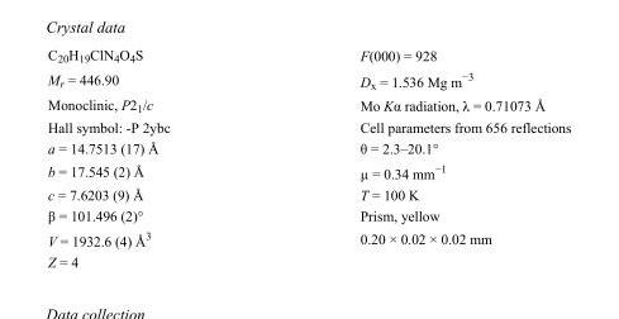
<table><tbody><tr><td>C<sub>20</sub>H<sub>19</sub>ClN<sub>4</sub>O<sub>4</sub>S</td><td>F(000) = 928</td></tr><tr><td>M<sub>r</sub> = 446.90</td><td>D<sub>x</sub> = 1.536 Mg m<sup>−3</sup></td></tr><tr><td>Monoclinic, P2<sub>1</sub>/c</td><td>Mo Kα radiation, λ = 0.71073 Å</td></tr><tr><td>Hall symbol: -P 2ybc</td><td>Cell parameters from 656 reflections</td></tr><tr><td>a = 14.7513 (17) Å</td><td>θ = 2.3–20.1°</td></tr><tr><td>b = 17.545 (2) Å</td><td>µ = 0.34 mm<sup>−1</sup></td></tr><tr><td>c = 7.6203 (9) Å</td><td>T = 100 K</td></tr><tr><td>β = 101.496 (2)°</td><td>Prism, yellow</td></tr><tr><td>V = 1932.6 (4) Å<sup>3</sup></td><td>0.20 × 0.02 × 0.02 mm</td></tr><tr><td>Z = 4</td><td></td></tr></tbody></table>